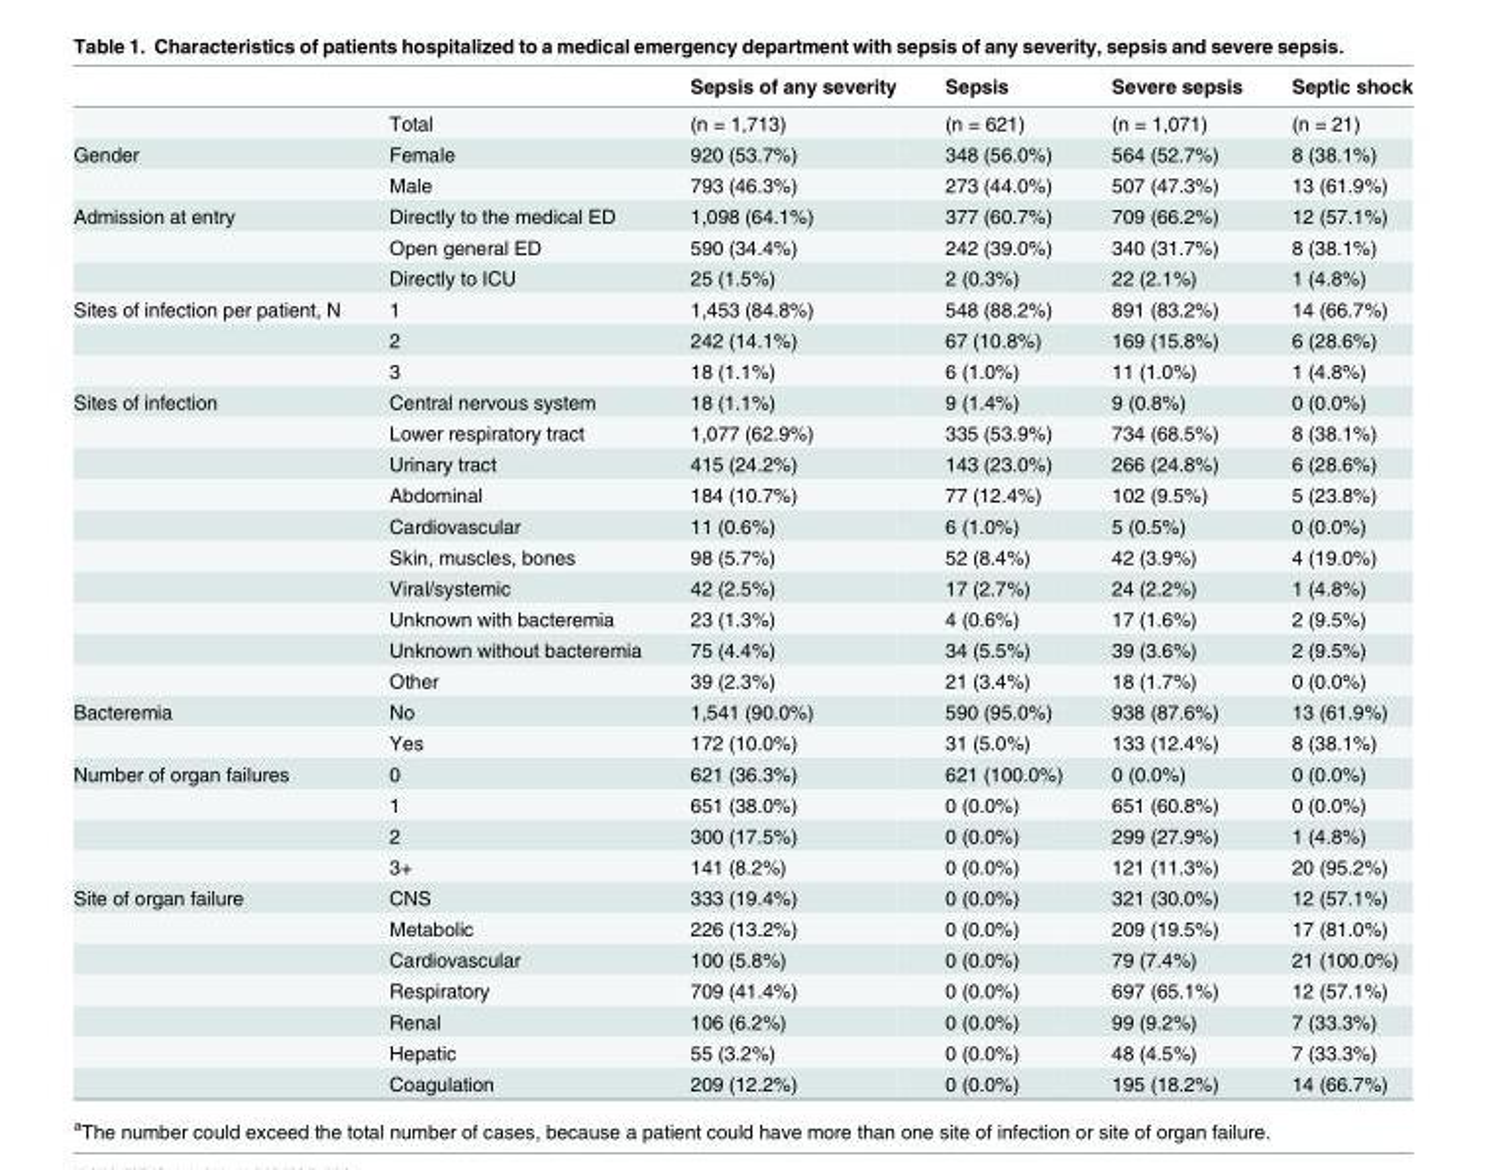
<table><thead><tr><td></td><td></td><td>Sepsis of any severity</td><td>Sepsis</td><td>Severe sepsis</td><td>Septic shock</td></tr></thead><tbody><tr><td></td><td>Total</td><td>(n = 1,713)</td><td>(n = 621)</td><td>(n = 1,071)</td><td>(n = 21)</td></tr><tr><td rowspan="2">Gender</td><td>Female</td><td>920 (53.7%)</td><td>348 (56.0%)</td><td>564 (52.7%)</td><td>8 (38.1%)</td></tr><tr><td>Male</td><td>793 (46.3%)</td><td>273 (44.0%)</td><td>507 (47.3%)</td><td>13 (61.9%)</td></tr><tr><td rowspan="3">Admission at entry</td><td>Directly to the medical ED</td><td>1,098 (64.1%)</td><td>377 (60.7%)</td><td>709 (66.2%)</td><td>12 (57.1%)</td></tr><tr><td>Open general ED</td><td>590 (34.4%)</td><td>242 (39.0%)</td><td>340 (31.7%)</td><td>8 (38.1%)</td></tr><tr><td>Directly to ICU</td><td>25 (1.5%)</td><td>2 (0.3%)</td><td>22 (2.1%)</td><td>1 (4.8%)</td></tr><tr><td rowspan="3">Sites of infection per patient, N</td><td>1</td><td>1,453 (84.8%)</td><td>548 (88.2%)</td><td>891 (83.2%)</td><td>14 (66.7%)</td></tr><tr><td>2</td><td>242 (14.1%)</td><td>67 (10.8%)</td><td>169 (15.8%)</td><td>6 (28.6%)</td></tr><tr><td>3</td><td>18 (1.1%)</td><td>6 (1.0%)</td><td>11 (1.0%)</td><td>1 (4.8%)</td></tr><tr><td rowspan="10">Sites of infection</td><td>Central nervous system</td><td>18 (1.1%)</td><td>9 (1.4%)</td><td>9 (0.8%)</td><td>0 (0.0%)</td></tr><tr><td>Lower respiratory tract</td><td>1,077 (62.9%)</td><td>335 (53.9%)</td><td>734 (68.5%)</td><td>8 (38.1%)</td></tr><tr><td>Urinary tract</td><td>415 (24.2%)</td><td>143 (23.0%)</td><td>266 (24.8%)</td><td>6 (28.6%)</td></tr><tr><td>Abdominal</td><td>184 (10.7%)</td><td>77 (12.4%)</td><td>102 (9.5%)</td><td>5 (23.8%)</td></tr><tr><td>Cardiovascular</td><td>11 (0.6%)</td><td>6 (1.0%)</td><td>5 (0.5%)</td><td>0 (0.0%)</td></tr><tr><td>Skin, muscles, bones</td><td>98 (5.7%)</td><td>52 (8.4%)</td><td>42 (3.9%)</td><td>4 (19.0%)</td></tr><tr><td>Viral/systemic</td><td>42 (2.5%)</td><td>17 (2.7%)</td><td>24 (2.2%)</td><td>1 (4.8%)</td></tr><tr><td>Unknown with bacteremia</td><td>23 (1.3%)</td><td>4 (0.6%)</td><td>17 (1.6%)</td><td>2 (9.5%)</td></tr><tr><td>Unknown without bacteremia</td><td>75 (4.4%)</td><td>34 (5.5%)</td><td>39 (3.6%)</td><td>2 (9.5%)</td></tr><tr><td>Other</td><td>39 (2.3%)</td><td>21 (3.4%)</td><td>18 (1.7%)</td><td>0 (0.0%)</td></tr><tr><td rowspan="2">Bacteremia</td><td>No</td><td>1,541 (90.0%)</td><td>590 (95.0%)</td><td>938 (87.6%)</td><td>13 (61.9%)</td></tr><tr><td>Yes</td><td>172 (10.0%)</td><td>31 (5.0%)</td><td>133 (12.4%)</td><td>8 (38.1%)</td></tr><tr><td rowspan="4">Number of organ failures</td><td>0</td><td>621 (36.3%)</td><td>621 (100.0%)</td><td>0 (0.0%)</td><td>0 (0.0%)</td></tr><tr><td>1</td><td>651 (38.0%)</td><td>0 (0.0%)</td><td>651 (60.8%)</td><td>0 (0.0%)</td></tr><tr><td>2</td><td>300 (17.5%)</td><td>0 (0.0%)</td><td>299 (27.9%)</td><td>1 (4.8%)</td></tr><tr><td>3+</td><td>141 (8.2%)</td><td>0 (0.0%)</td><td>121 (11.3%)</td><td>20 (95.2%)</td></tr><tr><td rowspan="7">Site of organ failure</td><td>CNS</td><td>333 (19.4%)</td><td>0 (0.0%)</td><td>321 (30.0%)</td><td>12 (57.1%)</td></tr><tr><td>Metabolic</td><td>226 (13.2%)</td><td>0 (0.0%)</td><td>209 (19.5%)</td><td>17 (81.0%)</td></tr><tr><td>Cardiovascular</td><td>100 (5.8%)</td><td>0 (0.0%)</td><td>79 (7.4%)</td><td>21 (100.0%)</td></tr><tr><td>Respiratory</td><td>709 (41.4%)</td><td>0 (0.0%)</td><td>697 (65.1%)</td><td>12 (57.1%)</td></tr><tr><td>Renal</td><td>106 (6.2%)</td><td>0 (0.0%)</td><td>99 (9.2%)</td><td>7 (33.3%)</td></tr><tr><td>Hepatic</td><td>55 (3.2%)</td><td>0 (0.0%)</td><td>48 (4.5%)</td><td>7 (33.3%)</td></tr><tr><td>Coagulation</td><td>209 (12.2%)</td><td>0 (0.0%)</td><td>195 (18.2%)</td><td>14 (66.7%)</td></tr></tbody></table>